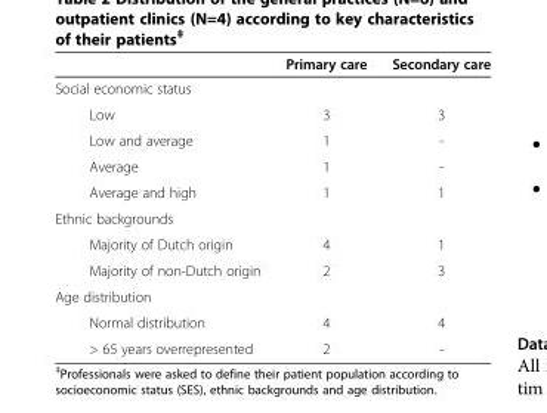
<table><thead><tr><td></td><td>Primary care</td><td>Secondary care</td></tr></thead><tbody><tr><td colspan="3">Social economic status</td></tr><tr><td>Low</td><td>3</td><td>3</td></tr><tr><td>Low and average</td><td>1</td><td>-</td></tr><tr><td>Average</td><td>1</td><td>-</td></tr><tr><td>Average and high</td><td>1</td><td>1</td></tr><tr><td colspan="3">Ethnic backgrounds</td></tr><tr><td>Majority of Dutch origin</td><td>4</td><td>1</td></tr><tr><td>Majority of non-Dutch origin</td><td>2</td><td>3</td></tr><tr><td colspan="3">Age distribution</td></tr><tr><td>Normal distribution</td><td>4</td><td>4</td></tr><tr><td>&gt; 65 years overrepresented</td><td>2</td><td>-</td></tr></tbody></table>